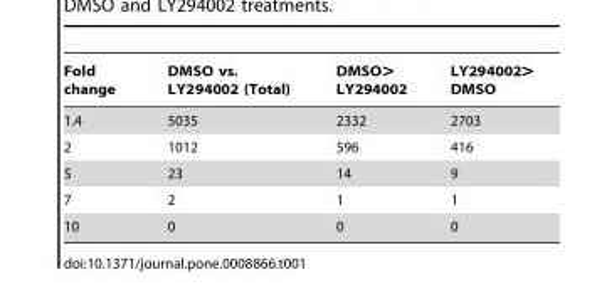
<table><thead><tr><td>Fold change</td><td>DMSO vs. LY294002 (Total)</td><td>DMSO&gt; LY294002</td><td>LY294002&gt; DMSO</td></tr></thead><tbody><tr><td>1.4</td><td>5035</td><td>2332</td><td>2703</td></tr><tr><td>2</td><td>1012</td><td>596</td><td>416</td></tr><tr><td>5</td><td>23</td><td>14</td><td>9</td></tr><tr><td>7</td><td>2</td><td>1</td><td>1</td></tr><tr><td>10</td><td>0</td><td>0</td><td>0</td></tr></tbody></table>